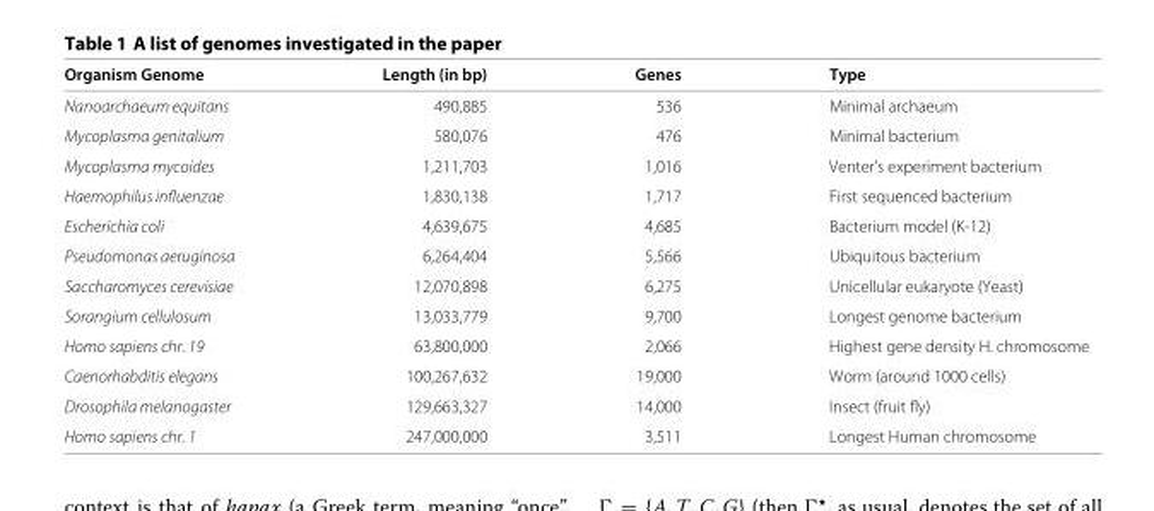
<table><thead><tr><td>Organism Genome</td><td>Length (in bp)</td><td>Genes</td><td>Type</td></tr></thead><tbody><tr><td>Nanoarchaeum equitans</td><td>490,885</td><td>536</td><td>Minimal archaeum</td></tr><tr><td>Mycoplasma genitalium</td><td>580,076</td><td>476</td><td>Minimal bacterium</td></tr><tr><td>Mycoplasma mycoides</td><td>1,211,703</td><td>1,016</td><td>Venter’s experiment bacterium</td></tr><tr><td>Haemophilus influenzae</td><td>1,830,138</td><td>1,717</td><td>First sequenced bacterium</td></tr><tr><td>Escherichia coli</td><td>4,639,675</td><td>4,685</td><td>Bacterium model (K-12)</td></tr><tr><td>Pseudomonas aeruginosa</td><td>6,264,404</td><td>5,566</td><td>Ubiquitous bacterium</td></tr><tr><td>Saccharomyces cerevisiae</td><td>12,070,898</td><td>6,275</td><td>Unicellular eukaryote (Yeast)</td></tr><tr><td>Sorangium cellulosum</td><td>13,033,779</td><td>9,700</td><td>Longest genome bacterium</td></tr><tr><td>Homo sapiens chr. 19</td><td>63,800,000</td><td>2,066</td><td>Highest gene density H. chromosome</td></tr><tr><td>Caenorhabditis elegans</td><td>100,267,632</td><td>19,000</td><td>Worm (around 1000 cells)</td></tr><tr><td>Drosophila melanogaster</td><td>129,663,327</td><td>14,000</td><td>Insect (fruit fly)</td></tr><tr><td>Homo sapiens chr. 1</td><td>247,000,000</td><td>3,511</td><td>Longest Human chromosome</td></tr></tbody></table>